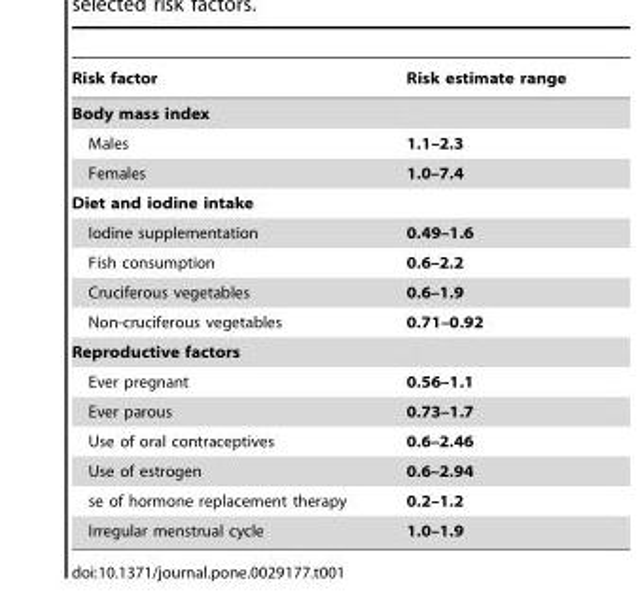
<table><thead><tr><td>Risk factor</td><td>Risk estimate range</td></tr></thead><tbody><tr><td colspan="2">Body mass index</td></tr><tr><td>Males</td><td>1.1–2.3</td></tr><tr><td>Females</td><td>1.0–7.4</td></tr><tr><td colspan="2">Diet and iodine intake</td></tr><tr><td>Iodine supplementation</td><td>0.49–1.6</td></tr><tr><td>Fish consumption</td><td>0.6–2.2</td></tr><tr><td>Cruciferous vegetables</td><td>0.6–1.9</td></tr><tr><td>Non-cruciferous vegetables</td><td>0.71–0.92</td></tr><tr><td colspan="2">Reproductive factors</td></tr><tr><td>Ever pregnant</td><td>0.56–1.1</td></tr><tr><td>Ever parous</td><td>0.73–1.7</td></tr><tr><td>Use of oral contraceptives</td><td>0.6–2.46</td></tr><tr><td>Use of estrogen</td><td>0.6–2.94</td></tr><tr><td>se of hormone replacement therapy</td><td>0.2–1.2</td></tr><tr><td>Irregular menstrual cycle</td><td>1.0–1.9</td></tr></tbody></table>